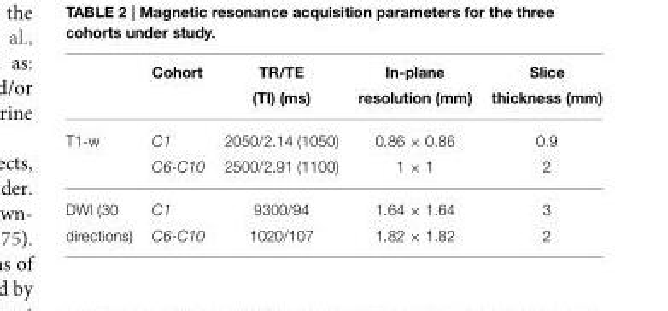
<table><thead><tr><td></td><td>Cohort</td><td>TR/TE (TI) (ms)</td><td>In-plane resolution (mm)</td><td>Slice thickness (mm)</td></tr></thead><tbody><tr><td rowspan="2">T1-w</td><td>C1</td><td>2050/2.14 (1050)</td><td>0.86 × 0.86</td><td>0.9</td></tr><tr><td>C6-C10</td><td>2500/2.91 (1100)</td><td>1 × 1</td><td>2</td></tr><tr><td>DWI (30</td><td>C1</td><td>9300/94</td><td>1.64 × 1.64</td><td>3</td></tr><tr><td>directions)</td><td>C6-C10</td><td>1020/107</td><td>1.82 × 1.82</td><td>2</td></tr></tbody></table>